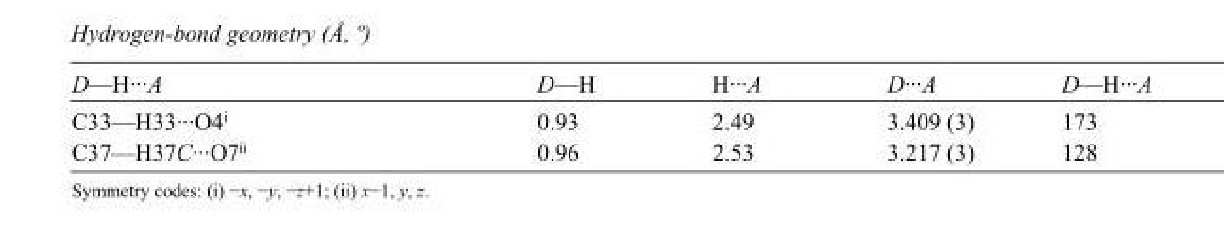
<table><tbody><tr><td>D—H···A</td><td>D—H</td><td>H···A</td><td>D···A</td><td>D—H···A</td></tr><tr><td>C33—H33···O4<sup>i</sup></td><td>0.93</td><td>2.49</td><td>3.409 (3)</td><td>173</td></tr><tr><td>C37—H37C···O7<sup>ii</sup></td><td>0.96</td><td>2.53</td><td>3.217 (3)</td><td>128</td></tr></tbody></table>